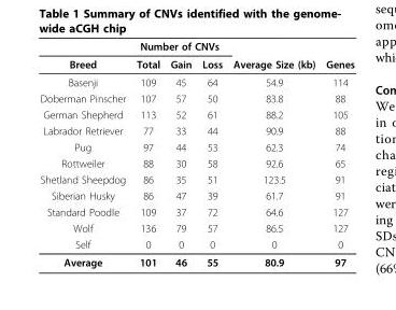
<table><thead><tr><td rowspan="2">Breed</td><td colspan="3">Number of CNVs</td><td rowspan="2">Average Size (kb)</td><td rowspan="2">Genes</td></tr><tr><td>Total</td><td>Gain</td><td>Loss</td></tr></thead><tbody><tr><td>Basenji</td><td>109</td><td>45</td><td>64</td><td>54.9</td><td>114</td></tr><tr><td>Doberman Pinscher</td><td>107</td><td>57</td><td>50</td><td>83.8</td><td>88</td></tr><tr><td>German Shepherd</td><td>113</td><td>52</td><td>61</td><td>88.2</td><td>105</td></tr><tr><td>Labrador Retriever</td><td>77</td><td>33</td><td>44</td><td>90.9</td><td>88</td></tr><tr><td>Pug</td><td>97</td><td>44</td><td>53</td><td>62.3</td><td>74</td></tr><tr><td>Rottweiler</td><td>88</td><td>30</td><td>58</td><td>92.6</td><td>65</td></tr><tr><td>Shetland Sheepdog</td><td>86</td><td>35</td><td>51</td><td>123.5</td><td>91</td></tr><tr><td>Siberian Husky</td><td>86</td><td>47</td><td>39</td><td>61.7</td><td>91</td></tr><tr><td>Standard Poodle</td><td>109</td><td>37</td><td>72</td><td>64.6</td><td>127</td></tr><tr><td>Wolf</td><td>136</td><td>79</td><td>57</td><td>86.5</td><td>127</td></tr><tr><td>Self</td><td>0</td><td>0</td><td>0</td><td>0</td><td>0</td></tr><tr><td>Average</td><td>101</td><td>46</td><td>55</td><td>80.9</td><td>97</td></tr></tbody></table>